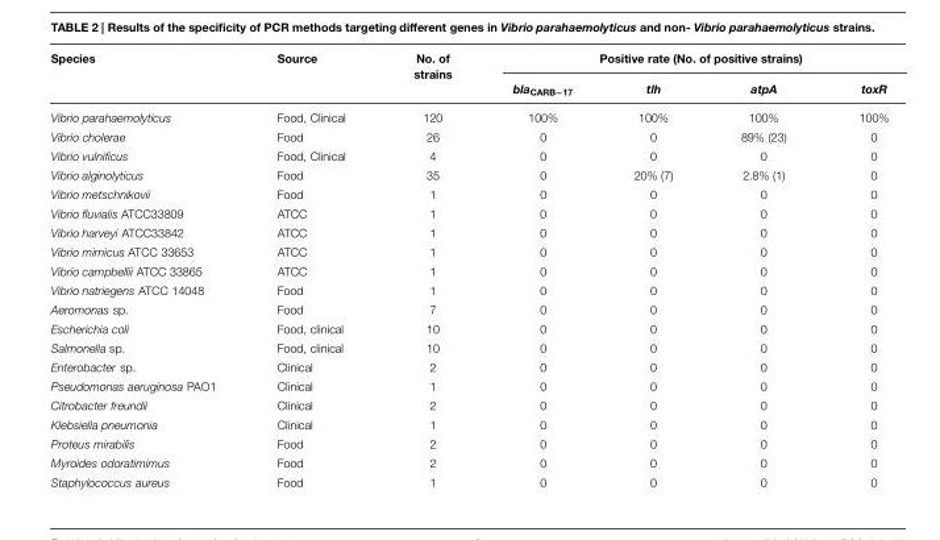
<table><thead><tr><td rowspan="2">Species</td><td rowspan="2">Source</td><td rowspan="2">No. of strains</td><td colspan="4">Positive rate (No. of positive strains)</td></tr><tr><td>bla<sub>CARB−17</sub></td><td>tlh</td><td>atpA</td><td>toxR</td></tr></thead><tbody><tr><td>Vibrio parahaemolyticus</td><td>Food, Clinical</td><td>120</td><td>100%</td><td>100%</td><td>100%</td><td>100%</td></tr><tr><td>Vibrio cholerae</td><td>Food</td><td>26</td><td>0</td><td>0</td><td>89% (23)</td><td>0</td></tr><tr><td>Vibrio vulnificus</td><td>Food, Clinical</td><td>4</td><td>0</td><td>0</td><td>0</td><td>0</td></tr><tr><td>Vibrio alginolyticus</td><td>Food</td><td>35</td><td>0</td><td>20% (7)</td><td>2.8% (1)</td><td>0</td></tr><tr><td>Vibrio metschnikovii</td><td>Food</td><td>1</td><td>0</td><td>0</td><td>0</td><td>0</td></tr><tr><td>Vibrio fluvialis ATCC33809</td><td>ATCC</td><td>1</td><td>0</td><td>0</td><td>0</td><td>0</td></tr><tr><td>Vibrio harveyi ATCC33842</td><td>ATCC</td><td>1</td><td>0</td><td>0</td><td>0</td><td>0</td></tr><tr><td>Vibrio mimicus ATCC 33653</td><td>ATCC</td><td>1</td><td>0</td><td>0</td><td>0</td><td>0</td></tr><tr><td>Vibrio campbellii ATCC 33865</td><td>ATCC</td><td>1</td><td>0</td><td>0</td><td>0</td><td>0</td></tr><tr><td>Vibrio natriegens ATCC 14048</td><td>Food</td><td>1</td><td>0</td><td>0</td><td>0</td><td>0</td></tr><tr><td>Aeromonas sp.</td><td>Food</td><td>7</td><td>0</td><td>0</td><td>0</td><td>0</td></tr><tr><td>Escherichia coli</td><td>Food, clinical</td><td>10</td><td>0</td><td>0</td><td>0</td><td>0</td></tr><tr><td>Salmonella sp.</td><td>Food, clinical</td><td>10</td><td>0</td><td>0</td><td>0</td><td>0</td></tr><tr><td>Enterobacter sp.</td><td>Clinical</td><td>2</td><td>0</td><td>0</td><td>0</td><td>0</td></tr><tr><td>Pseudomonas aeruginosa PAO1</td><td>Clinical</td><td>1</td><td>0</td><td>0</td><td>0</td><td>0</td></tr><tr><td>Citrobacter freundii</td><td>Clinical</td><td>2</td><td>0</td><td>0</td><td>0</td><td>0</td></tr><tr><td>Klebsiella pneumonia</td><td>Clinical</td><td>1</td><td>0</td><td>0</td><td>0</td><td>0</td></tr><tr><td>Proteus mirabilis</td><td>Food</td><td>2</td><td>0</td><td>0</td><td>0</td><td>0</td></tr><tr><td>Myroides odoratimimus</td><td>Food</td><td>2</td><td>0</td><td>0</td><td>0</td><td>0</td></tr><tr><td>Staphylococcus aureus</td><td>Food</td><td>1</td><td>0</td><td>0</td><td>0</td><td>0</td></tr></tbody></table>